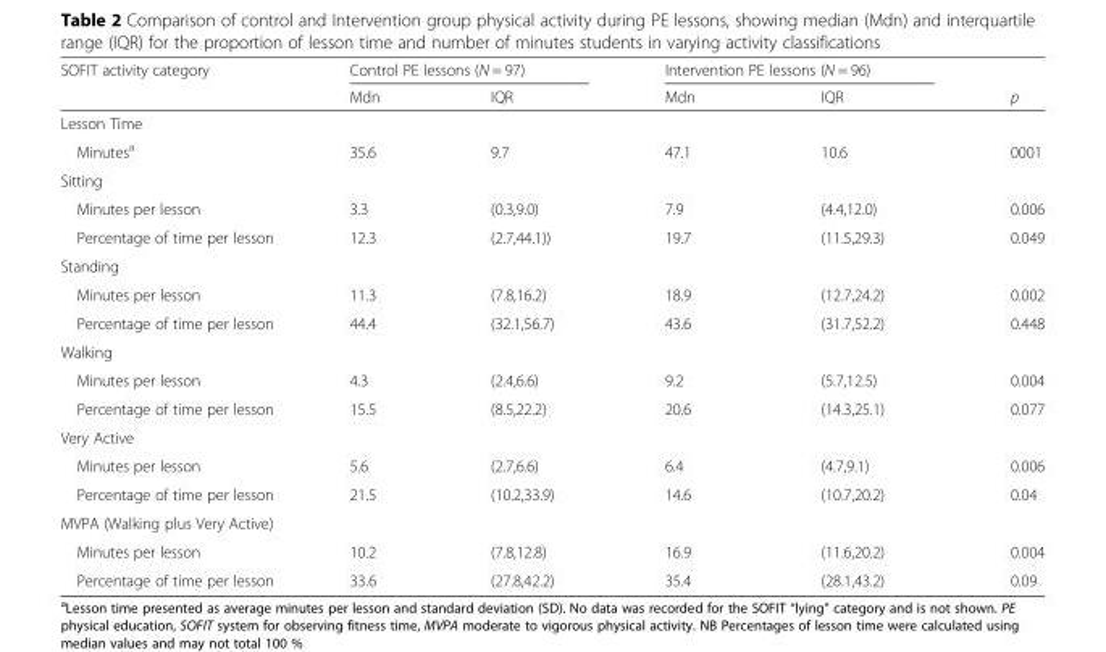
<table><thead><tr><td rowspan="2">SOFIT activity category</td><td colspan="2">Control PE lessons (N = 97)</td><td colspan="2">Intervention PE lessons (N = 96)</td><td rowspan="2">p</td></tr><tr><td>Mdn</td><td>IQR</td><td>Mdn</td><td>IQR</td></tr></thead><tbody><tr><td colspan="6">Lesson Time</td></tr><tr><td>Minutes<sup>a</sup></td><td>35.6</td><td>9.7</td><td>47.1</td><td>10.6</td><td>0001</td></tr><tr><td colspan="6">Sitting</td></tr><tr><td>Minutes per lesson</td><td>3.3</td><td>(0.3,9.0)</td><td>7.9</td><td>(4.4,12.0)</td><td>0.006</td></tr><tr><td>Percentage of time per lesson</td><td>12.3</td><td>(2.7,44.1))</td><td>19.7</td><td>(11.5,29.3)</td><td>0.049</td></tr><tr><td colspan="6">Standing</td></tr><tr><td>Minutes per lesson</td><td>11.3</td><td>(7.8,16.2)</td><td>18.9</td><td>(12.7,24.2)</td><td>0.002</td></tr><tr><td>Percentage of time per lesson</td><td>44.4</td><td>(32.1,56.7)</td><td>43.6</td><td>(31.7,52.2)</td><td>0.448</td></tr><tr><td colspan="6">Walking</td></tr><tr><td>Minutes per lesson</td><td>4.3</td><td>(2.4,6.6)</td><td>9.2</td><td>(5.7,12.5)</td><td>0.004</td></tr><tr><td>Percentage of time per lesson</td><td>15.5</td><td>(8.5,22.2)</td><td>20.6</td><td>(14.3,25.1)</td><td>0.077</td></tr><tr><td colspan="6">Very Active</td></tr><tr><td>Minutes per lesson</td><td>5.6</td><td>(2.7,6.6)</td><td>6.4</td><td>(4.7,9.1)</td><td>0.006</td></tr><tr><td>Percentage of time per lesson</td><td>21.5</td><td>(10.2,33.9)</td><td>14.6</td><td>(10.7,20.2)</td><td>0.04</td></tr><tr><td colspan="6">MVPA (Walking plus Very Active)</td></tr><tr><td>Minutes per lesson</td><td>10.2</td><td>(7.8,12.8)</td><td>16.9</td><td>(11.6,20.2)</td><td>0.004</td></tr><tr><td>Percentage of time per lesson</td><td>33.6</td><td>(27.8,42.2)</td><td>35.4</td><td>(28.1,43.2)</td><td>0.09</td></tr></tbody></table>